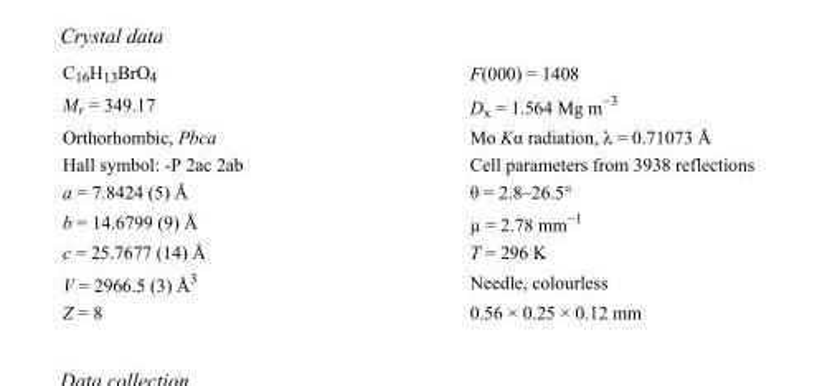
<table><tbody><tr><td>C<sub>16</sub>H<sub>13</sub>BrO<sub>4</sub></td><td>F(000) = 1408</td></tr><tr><td>M<sub>r</sub> = 349.17</td><td>D<sub>x</sub> = 1.564 Mg m<sup>−3</sup></td></tr><tr><td>Orthorhombic, Pbca</td><td>Mo Kα radiation, λ = 0.71073 Å</td></tr><tr><td>Hall symbol: -P 2ac 2ab</td><td>Cell parameters from 3938 reflections</td></tr><tr><td>a = 7.8424 (5) Å</td><td>θ = 2.8–26.5°</td></tr><tr><td>b = 14.6799 (9) Å</td><td>µ = 2.78 mm<sup>−1</sup></td></tr><tr><td>c = 25.7677 (14) Å</td><td>T = 296 K</td></tr><tr><td>V = 2966.5 (3) Å<sup>3</sup></td><td>Needle, colourless</td></tr><tr><td>Z = 8</td><td>0.56 × 0.25 × 0.12 mm</td></tr></tbody></table>